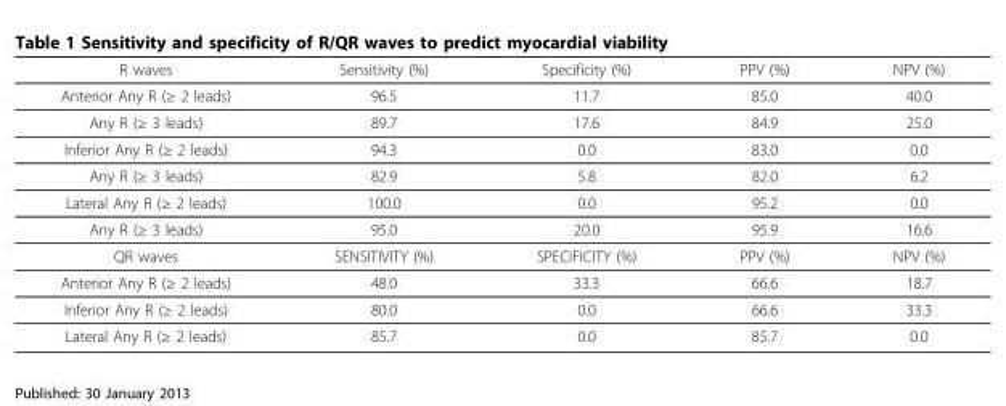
<table><thead><tr><td>R waves</td><td>Sensitivity (%)</td><td>Specificity (%)</td><td>PPV (%)</td><td>NPV (%)</td></tr></thead><tbody><tr><td>Anterior Any R (≥ 2 leads)</td><td>96.5</td><td>11.7</td><td>85.0</td><td>40.0</td></tr><tr><td>Any R (≥ 3 leads)</td><td>89.7</td><td>17.6</td><td>84.9</td><td>25.0</td></tr><tr><td>Inferior Any R (≥ 2 leads)</td><td>94.3</td><td>0.0</td><td>83.0</td><td>0.0</td></tr><tr><td>Any R (≥ 3 leads)</td><td>82.9</td><td>5.8</td><td>82.0</td><td>6.2</td></tr><tr><td>Lateral Any R (≥ 2 leads)</td><td>100.0</td><td>0.0</td><td>95.2</td><td>0.0</td></tr><tr><td>Any R (≥ 3 leads)</td><td>95.0</td><td>20.0</td><td>95.9</td><td>16.6</td></tr><tr><td>QR waves</td><td>SENSITIVITY (%)</td><td>SPECIFICITY (%)</td><td>PPV (%)</td><td>NPV (%)</td></tr><tr><td>Anterior Any R (≥ 2 leads)</td><td>48.0</td><td>33.3</td><td>66.6</td><td>18.7</td></tr><tr><td>Inferior Any R (≥ 2 leads)</td><td>80.0</td><td>0.0</td><td>66.6</td><td>33.3</td></tr><tr><td>Lateral Any R (≥ 2 leads)</td><td>85.7</td><td>0.0</td><td>85.7</td><td>0.0</td></tr></tbody></table>